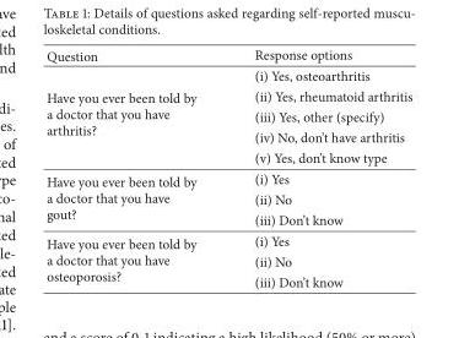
<table><thead><tr><td>Question</td><td>Response options</td></tr></thead><tbody><tr><td rowspan="5">Have you ever been told by a doctor that you have arthritis?</td><td>(i) Yes, osteoarthritis</td></tr><tr><td>(ii) Yes, rheumatoid arthritis</td></tr><tr><td>(iii) Yes, other (specify)</td></tr><tr><td>(iv) No, don’t have arthritis</td></tr><tr><td>(v) Yes, don’t know type</td></tr><tr><td rowspan="3">Have you ever been told by a doctor that you have gout?</td><td>(i) Yes</td></tr><tr><td>(ii) No</td></tr><tr><td>(iii) Don’t know</td></tr><tr><td rowspan="3">Have you ever been told by a doctor that you have osteoporosis?</td><td>(i) Yes</td></tr><tr><td>(ii) No</td></tr><tr><td>(iii) Don’t know</td></tr></tbody></table>